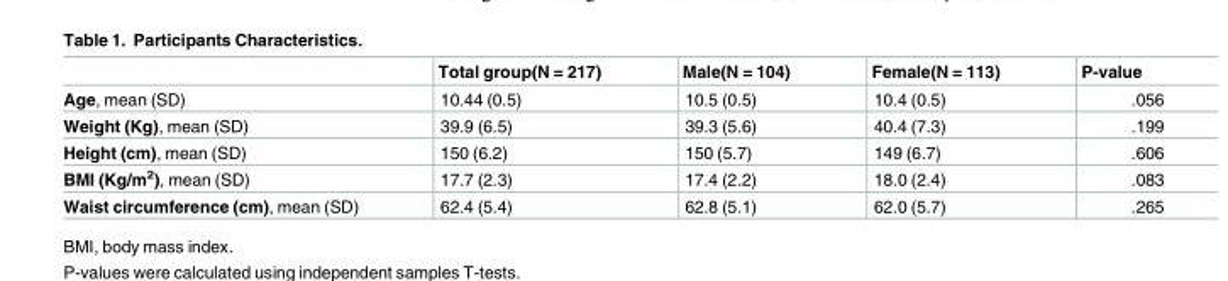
<table><thead><tr><td></td><td>Total group(N = 217)</td><td>Male(N = 104)</td><td>Female(N = 113)</td><td>P-value</td></tr></thead><tbody><tr><td>Age, mean (SD)</td><td>10.44 (0.5)</td><td>10.5 (0.5)</td><td>10.4 (0.5)</td><td>.056</td></tr><tr><td>Weight (Kg), mean (SD)</td><td>39.9 (6.5)</td><td>39.3 (5.6)</td><td>40.4 (7.3)</td><td>.199</td></tr><tr><td>Height (cm), mean (SD)</td><td>150 (6.2)</td><td>150 (5.7)</td><td>149 (6.7)</td><td>.606</td></tr><tr><td>BMI (Kg/m<sup>2</sup>), mean (SD)</td><td>17.7 (2.3)</td><td>17.4 (2.2)</td><td>18.0 (2.4)</td><td>.083</td></tr><tr><td>Waist circumference (cm), mean (SD)</td><td>62.4 (5.4)</td><td>62.8 (5.1)</td><td>62.0 (5.7)</td><td>.265</td></tr></tbody></table>